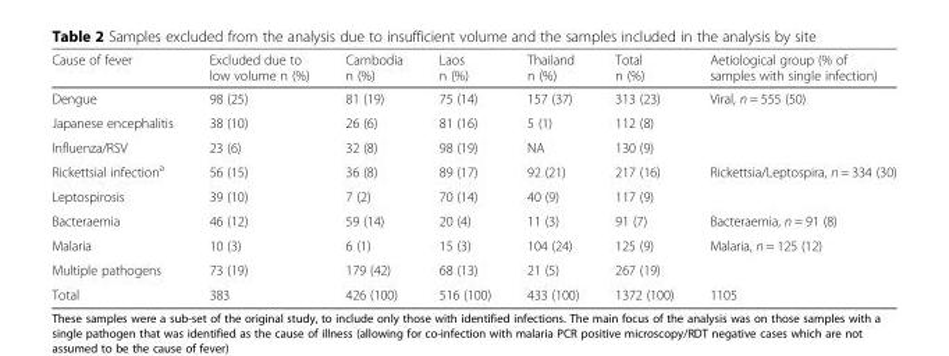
<table><thead><tr><td>Cause of fever</td><td>Excluded due to low volume n (%)</td><td>Cambodia n (%)</td><td>Laos n (%)</td><td>Thailand n (%)</td><td>Total n (%)</td><td>Aetiological group (% of samples with single infection)</td></tr></thead><tbody><tr><td>Dengue</td><td>98 (25)</td><td>81 (19)</td><td>75 (14)</td><td>157 (37)</td><td>313 (23)</td><td rowspan="3">Viral, n = 555 (50)</td></tr><tr><td>Japanese encephalitis</td><td>38 (10)</td><td>26 (6)</td><td>81 (16)</td><td>5 (1)</td><td>112 (8)</td></tr><tr><td>Influenza/RSV</td><td>23 (6)</td><td>32 (8)</td><td>98 (19)</td><td>NA</td><td>130 (9)</td></tr><tr><td>Rickettsial infection<sup>a</sup></td><td>56 (15)</td><td>36 (8)</td><td>89 (17)</td><td>92 (21)</td><td>217 (16)</td><td rowspan="2">Rickettsia/Leptospira, n = 334 (30)</td></tr><tr><td>Leptospirosis</td><td>39 (10)</td><td>7 (2)</td><td>70 (14)</td><td>40 (9)</td><td>117 (9)</td></tr><tr><td>Bacteraemia</td><td>46 (12)</td><td>59 (14)</td><td>20 (4)</td><td>11 (3)</td><td>91 (7)</td><td>Bacteraemia, n = 91 (8)</td></tr><tr><td>Malaria</td><td>10 (3)</td><td>6 (1)</td><td>15 (3)</td><td>104 (24)</td><td>125 (9)</td><td>Malaria, n = 125 (12)</td></tr><tr><td>Multiple pathogens</td><td>73 (19)</td><td>179 (42)</td><td>68 (13)</td><td>21 (5)</td><td>267 (19)</td><td></td></tr><tr><td>Total</td><td>383</td><td>426 (100)</td><td>516 (100)</td><td>433 (100)</td><td>1372 (100)</td><td>1105</td></tr></tbody></table>